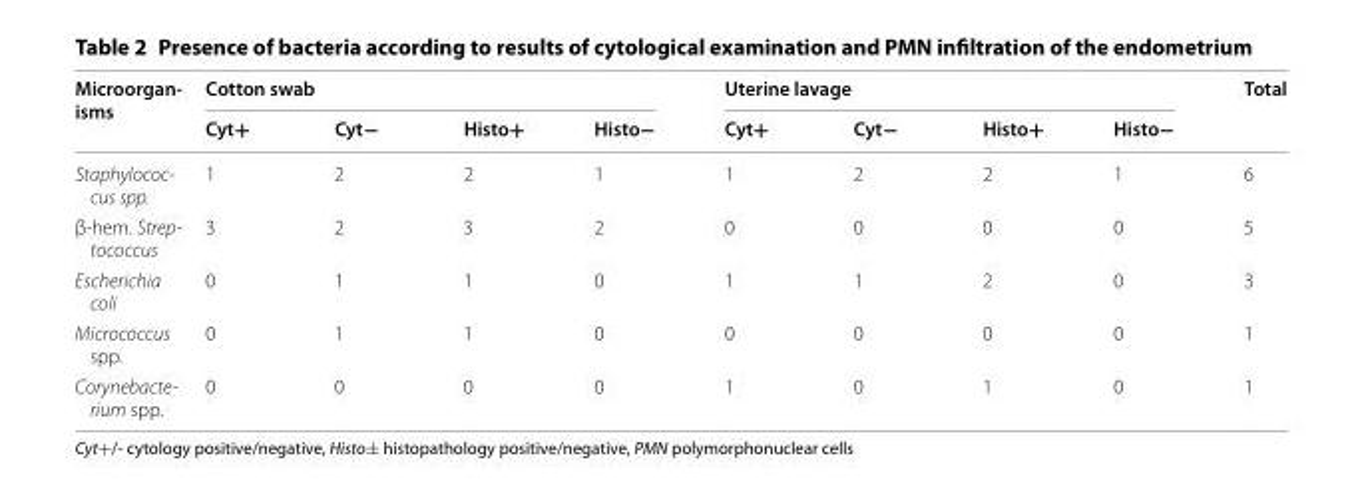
<table><thead><tr><td rowspan="2">Microorgan- isms</td><td colspan="4">Cotton swab</td><td colspan="4">Uterine lavage</td><td rowspan="2">Total</td></tr><tr><td>Cyt+</td><td>Cyt−</td><td>Histo+</td><td>Histo−</td><td>Cyt+</td><td>Cyt−</td><td>Histo+</td><td>Histo−</td></tr></thead><tbody><tr><td>Staphylococ- cus spp.</td><td>1</td><td>2</td><td>2</td><td>1</td><td>1</td><td>2</td><td>2</td><td>1</td><td>6</td></tr><tr><td>β-hem. Strep- tococcus</td><td>3</td><td>2</td><td>3</td><td>2</td><td>0</td><td>0</td><td>0</td><td>0</td><td>5</td></tr><tr><td>Escherichia coli</td><td>0</td><td>1</td><td>1</td><td>0</td><td>1</td><td>1</td><td>2</td><td>0</td><td>3</td></tr><tr><td>Micrococcus spp.</td><td>0</td><td>1</td><td>1</td><td>0</td><td>0</td><td>0</td><td>0</td><td>0</td><td>1</td></tr><tr><td>Corynebacte- rium spp.</td><td>0</td><td>0</td><td>0</td><td>0</td><td>1</td><td>0</td><td>1</td><td>0</td><td>1</td></tr></tbody></table>